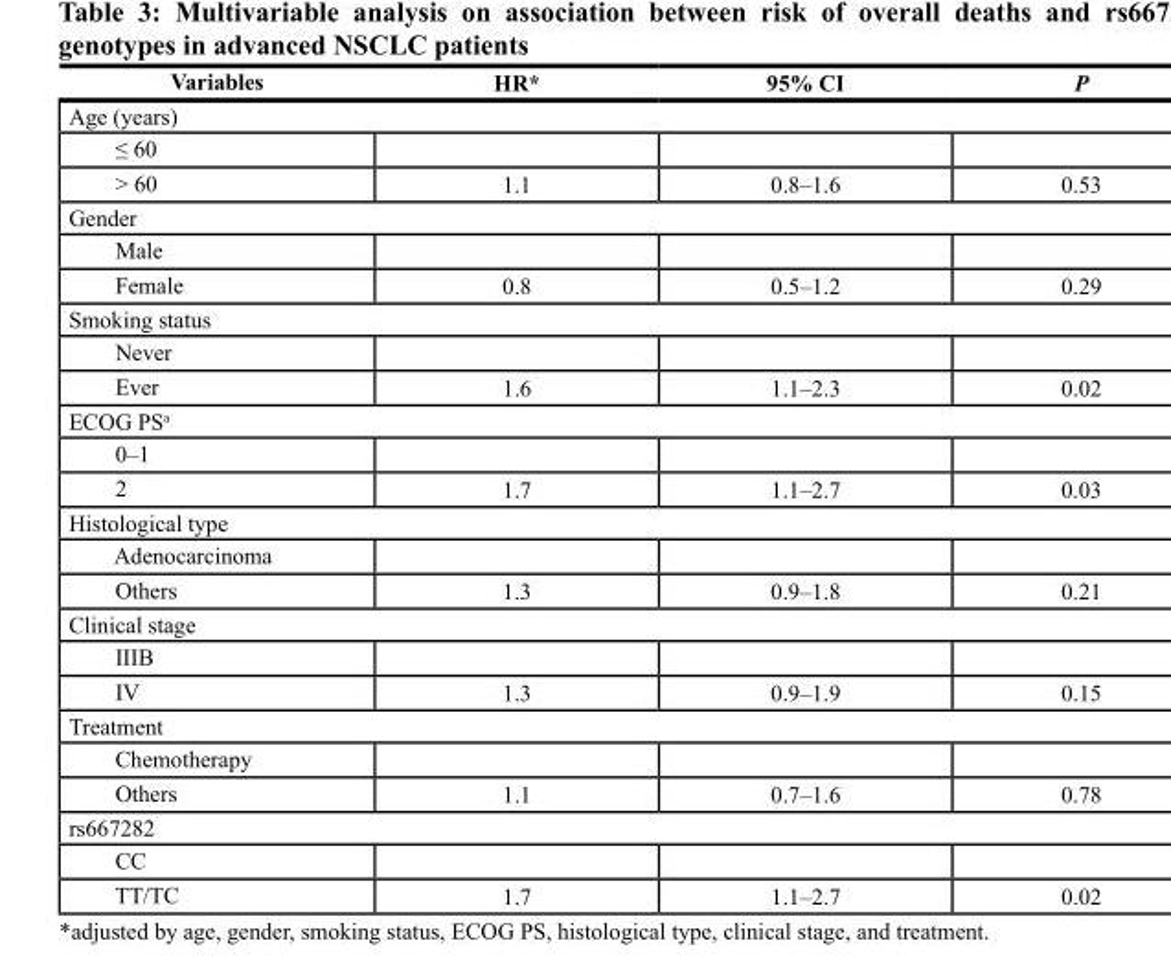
<table><thead><tr><td>Variables</td><td>HR*</td><td>95% CI</td><td>P</td></tr></thead><tbody><tr><td colspan="4">Age (years)</td></tr><tr><td colspan="4">≤ 60</td></tr><tr><td>˃ 60</td><td>1.1</td><td>0.8–1.6</td><td>0.53</td></tr><tr><td colspan="4">Gender</td></tr><tr><td colspan="4">Male</td></tr><tr><td>Female</td><td>0.8</td><td>0.5–1.2</td><td>0.29</td></tr><tr><td colspan="4">Smoking status</td></tr><tr><td colspan="4">Never</td></tr><tr><td>Ever</td><td>1.6</td><td>1.1–2.3</td><td>0.02</td></tr><tr><td colspan="4">ECOG PS<sup>a</sup></td></tr><tr><td colspan="4">0–1</td></tr><tr><td>2</td><td>1.7</td><td>1.1–2.7</td><td>0.03</td></tr><tr><td colspan="4">Histological type</td></tr><tr><td colspan="4">Adenocarcinoma</td></tr><tr><td>Others</td><td>1.3</td><td>0.9–1.8</td><td>0.21</td></tr><tr><td colspan="4">Clinical stage</td></tr><tr><td colspan="4">IIIB</td></tr><tr><td>IV</td><td>1.3</td><td>0.9–1.9</td><td>0.15</td></tr><tr><td colspan="4">Treatment</td></tr><tr><td colspan="4">Chemotherapy</td></tr><tr><td>Others</td><td>1.1</td><td>0.7–1.6</td><td>0.78</td></tr><tr><td colspan="4">rs667282</td></tr><tr><td colspan="4">CC</td></tr><tr><td>TT/TC</td><td>1.7</td><td>1.1–2.7</td><td>0.02</td></tr></tbody></table>